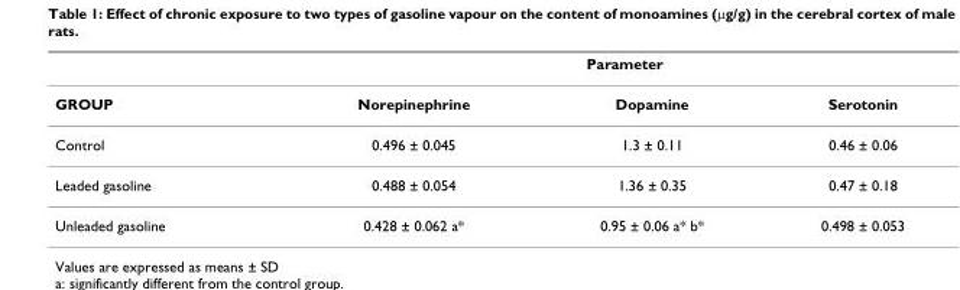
<table><thead><tr><td rowspan="2">GROUP</td><td colspan="3">Parameter</td></tr><tr><td>Norepinephrine</td><td>Dopamine</td><td>Serotonin</td></tr></thead><tbody><tr><td>Control</td><td>0.496 ± 0.045</td><td>1.3 ± 0.11</td><td>0.46 ± 0.06</td></tr><tr><td>Leaded gasoline</td><td>0.488 ± 0.054</td><td>1.36 ± 0.35</td><td>0.47 ± 0.18</td></tr><tr><td>Unleaded gasoline</td><td>0.428 ± 0.062 a*</td><td>0.95 ± 0.06 a* b*</td><td>0.498 ± 0.053</td></tr></tbody></table>